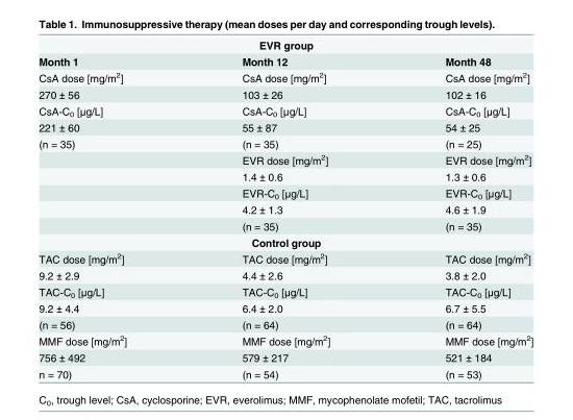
<table><tbody><tr><td colspan="3">EVR group</td></tr><tr><td>Month 1</td><td>Month 12</td><td>Month 48</td></tr><tr><td>CsA dose [mg/m<sup>2</sup>]</td><td>CsA dose [mg/m<sup>2</sup>]</td><td>CsA dose [mg/m<sup>2</sup>]</td></tr><tr><td>270 ± 56</td><td>103 ± 26</td><td>102 ± 16</td></tr><tr><td>CsA-C<sub>0</sub> [μg/L]</td><td>CsA-C<sub>0</sub> [μg/L]</td><td>CsA-C<sub>0</sub> [μg/L]</td></tr><tr><td>221 ± 60</td><td>55 ± 87</td><td>54 ± 25</td></tr><tr><td rowspan="6">(n = 35)</td><td>(n = 35)</td><td>(n = 25)</td></tr><tr><td>EVR dose [mg/m<sup>2</sup>]</td><td>EVR dose [mg/m<sup>2</sup>]</td></tr><tr><td>1.4 ± 0.6</td><td>1.3 ± 0.6</td></tr><tr><td>EVR-C<sub>0</sub> [μg/L]</td><td>EVR-C<sub>0</sub> [μg/L]</td></tr><tr><td>4.2 ± 1.3</td><td>4.6 ± 1.9</td></tr><tr><td>(n = 35)</td><td>(n = 35)</td></tr><tr><td colspan="3">Control group</td></tr><tr><td>TAC dose [mg/m<sup>2</sup>]</td><td>TAC dose [mg/m<sup>2</sup>]</td><td>TAC dose [mg/m<sup>2</sup>]</td></tr><tr><td>9.2 ± 2.9</td><td>4.4 ± 2.6</td><td>3.8 ± 2.0</td></tr><tr><td>TAC-C<sub>0</sub> [μg/L]</td><td>TAC-C<sub>0</sub> [μg/L]</td><td>TAC-C<sub>0</sub> [μg/L]</td></tr><tr><td>9.2 ± 4.4</td><td>6.4 ± 2.0</td><td>6.7 ± 5.5</td></tr><tr><td>(n = 56)</td><td>(n = 64)</td><td>(n = 64)</td></tr><tr><td>MMF dose [mg/m<sup>2</sup>]</td><td>MMF dose [mg/m<sup>2</sup>]</td><td>MMF dose [mg/m<sup>2</sup>]</td></tr><tr><td>756 ± 492</td><td>579 ± 217</td><td>521 ± 184</td></tr><tr><td>n = 70)</td><td>(n = 54)</td><td>(n = 53)</td></tr></tbody></table>